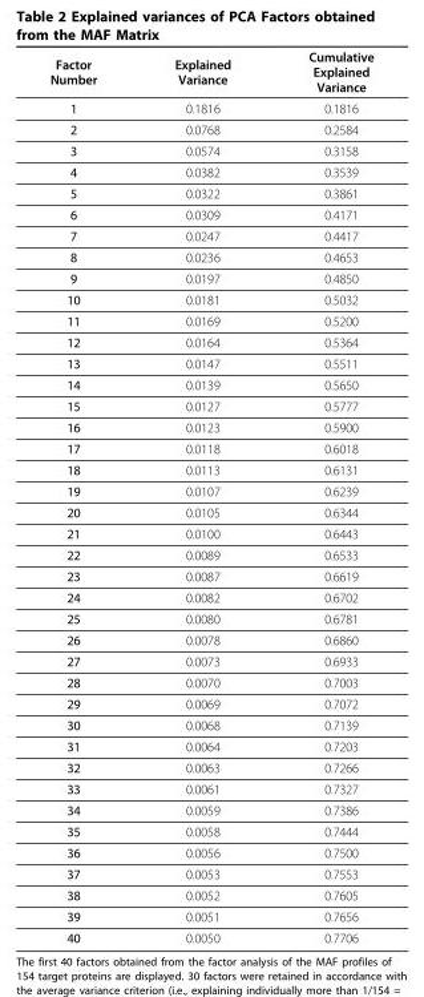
<table><thead><tr><td>Factor Number</td><td>Explained Variance</td><td>Cumulative Explained Variance</td></tr></thead><tbody><tr><td>1</td><td>0.1816</td><td>0.1816</td></tr><tr><td>2</td><td>0.0768</td><td>0.2584</td></tr><tr><td>3</td><td>0.0574</td><td>0.3158</td></tr><tr><td>4</td><td>0.0382</td><td>0.3539</td></tr><tr><td>5</td><td>0.0322</td><td>0.3861</td></tr><tr><td>6</td><td>0.0309</td><td>0.4171</td></tr><tr><td>7</td><td>0.0247</td><td>0.4417</td></tr><tr><td>8</td><td>0.0236</td><td>0.4653</td></tr><tr><td>9</td><td>0.0197</td><td>0.4850</td></tr><tr><td>10</td><td>0.0181</td><td>0.5032</td></tr><tr><td>11</td><td>0.0169</td><td>0.5200</td></tr><tr><td>12</td><td>0.0164</td><td>0.5364</td></tr><tr><td>13</td><td>0.0147</td><td>0.5511</td></tr><tr><td>14</td><td>0.0139</td><td>0.5650</td></tr><tr><td>15</td><td>0.0127</td><td>0.5777</td></tr><tr><td>16</td><td>0.0123</td><td>0.5900</td></tr><tr><td>17</td><td>0.0118</td><td>0.6018</td></tr><tr><td>18</td><td>0.0113</td><td>0.6131</td></tr><tr><td>19</td><td>0.0107</td><td>0.6239</td></tr><tr><td>20</td><td>0.0105</td><td>0.6344</td></tr><tr><td>21</td><td>0.0100</td><td>0.6443</td></tr><tr><td>22</td><td>0.0089</td><td>0.6533</td></tr><tr><td>23</td><td>0.0087</td><td>0.6619</td></tr><tr><td>24</td><td>0.0082</td><td>0.6702</td></tr><tr><td>25</td><td>0.0080</td><td>0.6781</td></tr><tr><td>26</td><td>0.0078</td><td>0.6860</td></tr><tr><td>27</td><td>0.0073</td><td>0.6933</td></tr><tr><td>28</td><td>0.0070</td><td>0.7003</td></tr><tr><td>29</td><td>0.0069</td><td>0.7072</td></tr><tr><td>30</td><td>0.0068</td><td>0.7139</td></tr><tr><td>31</td><td>0.0064</td><td>0.7203</td></tr><tr><td>32</td><td>0.0063</td><td>0.7266</td></tr><tr><td>33</td><td>0.0061</td><td>0.7327</td></tr><tr><td>34</td><td>0.0059</td><td>0.7386</td></tr><tr><td>35</td><td>0.0058</td><td>0.7444</td></tr><tr><td>36</td><td>0.0056</td><td>0.7500</td></tr><tr><td>37</td><td>0.0053</td><td>0.7553</td></tr><tr><td>38</td><td>0.0052</td><td>0.7605</td></tr><tr><td>39</td><td>0.0051</td><td>0.7656</td></tr><tr><td>40</td><td>0.0050</td><td>0.7706</td></tr></tbody></table>